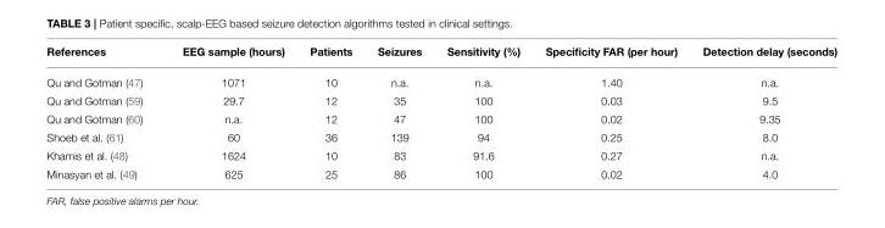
<table><thead><tr><td>References</td><td>EEG sample (hours)</td><td>Patients</td><td>Seizures</td><td>Sensitivity (%)</td><td>Specificity FAR (per hour)</td><td>Detection delay (seconds)</td></tr></thead><tbody><tr><td>Qu and Gotman (47)</td><td>1071</td><td>10</td><td>n.a.</td><td>n.a.</td><td>1.40</td><td>n.a.</td></tr><tr><td>Qu and Gotman (59)</td><td>29.7</td><td>12</td><td>35</td><td>100</td><td>0.03</td><td>9.5</td></tr><tr><td>Qu and Gotman (60)</td><td>n.a.</td><td>12</td><td>47</td><td>100</td><td>0.02</td><td>9.35</td></tr><tr><td>Shoeb et al. (61)</td><td>60</td><td>36</td><td>139</td><td>94</td><td>0.25</td><td>8.0</td></tr><tr><td>Khamis et al. (48)</td><td>1624</td><td>10</td><td>83</td><td>91.6</td><td>0.27</td><td>n.a.</td></tr><tr><td>Minasyan et al. (49)</td><td>625</td><td>25</td><td>86</td><td>100</td><td>0.02</td><td>4.0</td></tr></tbody></table>